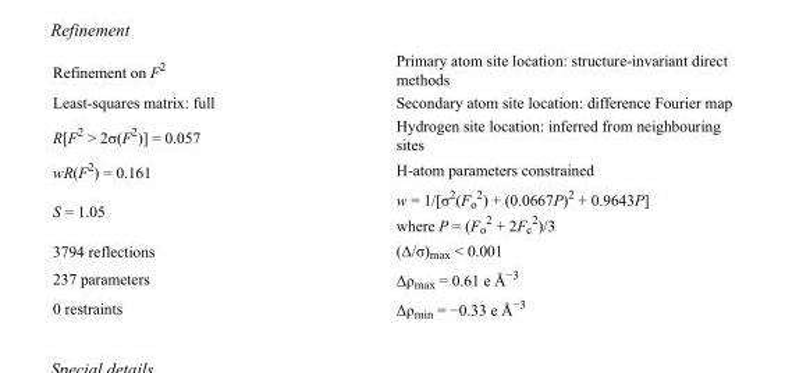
<table><tbody><tr><td>Refinement on F<sup>2</sup></td><td>Primary atom site location: structure-invariant direct methods</td></tr><tr><td>Least-squares matrix: full</td><td>Secondary atom site location: difference Fourier map</td></tr><tr><td>R[F<sup>2</sup> &gt; 2σ(F<sup>2</sup>)] = 0.057</td><td>Hydrogen site location: inferred from neighbouring sites</td></tr><tr><td>wR(F<sup>2</sup>) = 0.161</td><td>H-atom parameters constrained</td></tr><tr><td>S = 1.05</td><td>w = 1/[σ<sup>2</sup>(F<sub>o</sub> <sup>2</sup>) + (0.0667P)<sup>2</sup> + 0.9643P] where P = (F<sub>o</sub> <sup>2</sup> + 2F<sub>c</sub> <sup>2</sup>)/3</td></tr><tr><td>3794 reflections</td><td>(Δ/σ)<sub>max</sub> &lt; 0.001</td></tr><tr><td>237 parameters</td><td>Δρ<sub>max</sub> = 0.61 e Å<sup>−3</sup></td></tr><tr><td>0 restraints</td><td>Δρ<sub>min</sub> = −0.33 e Å<sup>−3</sup></td></tr></tbody></table>